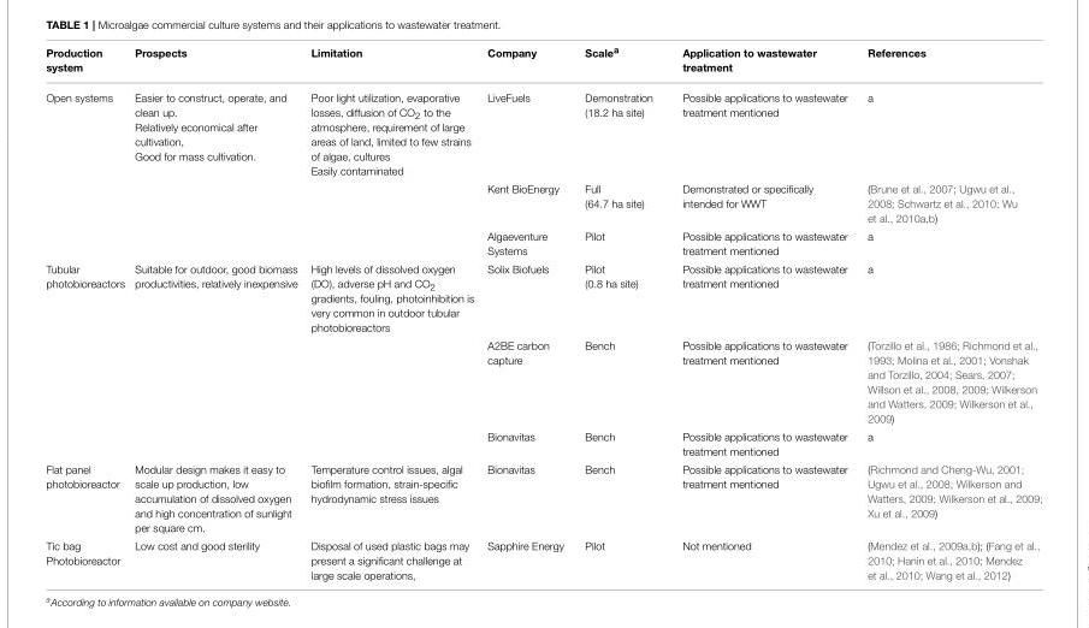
<table><thead><tr><td>Production system</td><td>Prospects</td><td>Limitation</td><td>Company</td><td>Scale<sup>a</sup></td><td>Application to wastewater treatment</td><td>References</td></tr></thead><tbody><tr><td rowspan="3">Open systems</td><td>Easier to construct, operate, and clean up. Relatively economical after cultivation, Good for mass cultivation.</td><td>Poor light utilization, evaporative losses, diffusion of CO<sub>2</sub> to the atmosphere, requirement of large areas of land, limited to few strains of algae, cultures Easily contaminated</td><td>LiveFuels</td><td>Demonstration (18.2 ha site)</td><td>Possible applications to wastewater treatment mentioned</td><td>a</td></tr><tr><td></td><td></td><td>Kent BioEnergy</td><td>Full (64.7 ha site)</td><td>Demonstrated or specifically intended for WWT</td><td>(Brune et al., 2007; Ugwu et al., 2008; Schwartz et al., 2010; Wu et al., 2010a,b)</td></tr><tr><td></td><td></td><td>Algaeventure Systems</td><td>Pilot</td><td>Possible applications to wastewater treatment mentioned</td><td>a</td></tr><tr><td rowspan="3">Tubular photobioreactors</td><td>Suitable for outdoor, good biomass productivities, relatively inexpensive</td><td>High levels of dissolved oxygen (DO), adverse pH and CO<sub>2</sub> gradients, fouling, photoinhibition is very common in outdoor tubular photobioreactors</td><td>Solix Biofuels</td><td>Pilot (0.8 ha site)</td><td>Possible applications to wastewater treatment mentioned</td><td>a</td></tr><tr><td></td><td></td><td>A2BE carbon capture</td><td>Bench</td><td>Possible applications to wastewater treatment mentioned</td><td>(Torzillo et al., 1986; Richmond et al., 1993; Molina et al., 2001; Vonshak and Torzillo, 2004; Sears, 2007; Willson et al., 2008, 2009; Wilkerson and Watters, 2009; Wilkerson et al., 2009)</td></tr><tr><td></td><td></td><td>Bionavitas</td><td>Bench</td><td>Possible applications to wastewater treatment mentioned</td><td>a</td></tr><tr><td>Flat panel photobioreactor</td><td>Modular design makes it easy to scale up production, low accumulation of dissolved oxygen and high concentration of sunlight per square cm.</td><td>Temperature control issues, algal biofilm formation, strain-specific hydrodynamic stress issues</td><td>Bionavitas</td><td>Bench</td><td>Possible applications to wastewater treatment mentioned</td><td>(Richmond and Cheng-Wu, 2001; Ugwu et al., 2008; Wilkerson and Watters, 2009; Wilkerson et al., 2009; Xu et al., 2009)</td></tr><tr><td>Tic bag Photobioreactor</td><td>Low cost and good sterility</td><td>Disposal of used plastic bags may present a significant challenge at large scale operations,</td><td>Sapphire Energy</td><td>Pilot</td><td>Not mentioned</td><td>(Mendez et al., 2009a,b); (Fang et al., 2010; Hanin et al., 2010; Mendez et al., 2010; Wang et al., 2012)</td></tr></tbody></table>